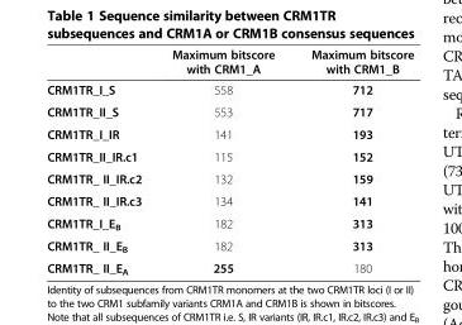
<table><thead><tr><td></td><td>Maximum bitscore with CRM1_A</td><td>Maximum bitscore with CRM1_B</td></tr></thead><tbody><tr><td>CRM1TR_I_S</td><td>558</td><td>712</td></tr><tr><td>CRM1TR_II_S</td><td>553</td><td>717</td></tr><tr><td>CRM1TR_I_IR</td><td>141</td><td>193</td></tr><tr><td>CRM1TR_II_IR.c1</td><td>115</td><td>152</td></tr><tr><td>CRM1TR_ II_IR.c2</td><td>132</td><td>159</td></tr><tr><td>CRM1TR_ II_IR.c3</td><td>134</td><td>141</td></tr><tr><td>CRM1TR_I_E<sub>B</sub></td><td>182</td><td>313</td></tr><tr><td>CRM1TR_ II_E<sub>B</sub></td><td>182</td><td>313</td></tr><tr><td>CRM1TR_ II_E<sub>A</sub></td><td>255</td><td>180</td></tr></tbody></table>